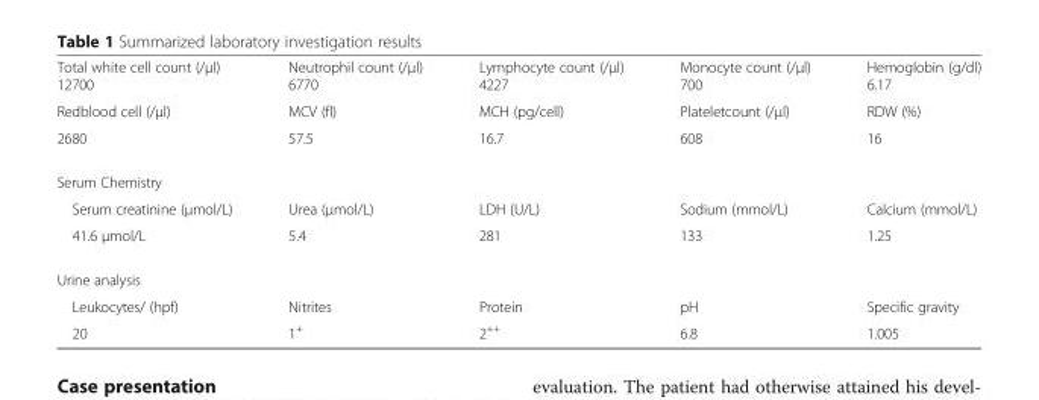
<table><thead><tr><td>Total white cell count (/μl)</td><td>Neutrophil count (/μl)</td><td>Lymphocyte count (/μl)</td><td>Monocyte count (/μl)</td><td>Hemoglobin (g/dl)</td></tr></thead><tbody><tr><td>12700</td><td>6770</td><td>4227</td><td>700</td><td>6.17</td></tr><tr><td>Redblood cell (/μl)</td><td>MCV (fl)</td><td>MCH (pg/cell)</td><td>Plateletcount (/μl)</td><td>RDW (%)</td></tr><tr><td>2680</td><td>57.5</td><td>16.7</td><td>608</td><td>16</td></tr><tr><td colspan="5">Serum Chemistry</td></tr><tr><td>Serum creatinine (μmol/L)</td><td>Urea (μmol/L)</td><td>LDH (U/L)</td><td>Sodium (mmol/L)</td><td>Calcium (mmol/L)</td></tr><tr><td>41.6 μmol/L</td><td>5.4</td><td>281</td><td>133</td><td>1.25</td></tr><tr><td colspan="5">Urine analysis</td></tr><tr><td>Leukocytes/ (hpf)</td><td>Nitrites</td><td>Protein</td><td>pH</td><td>Specific gravity</td></tr><tr><td>20</td><td>1<sup>+</sup></td><td>2<sup>++</sup></td><td>6.8</td><td>1.005</td></tr></tbody></table>